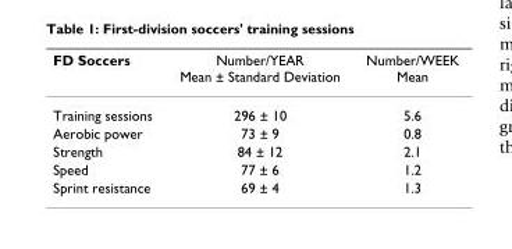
<table><thead><tr><td>FD Soccers</td><td>Number/YEAR Mean ± Standard Deviation</td><td>Number/WEEK Mean</td></tr></thead><tbody><tr><td>Training sessions</td><td>296 ± 10</td><td>5.6</td></tr><tr><td>Aerobic power</td><td>73 ± 9</td><td>0.8</td></tr><tr><td>Strength</td><td>84 ± 12</td><td>2.1</td></tr><tr><td>Speed</td><td>77 ± 6</td><td>1.2</td></tr><tr><td>Sprint resistance</td><td>69 ± 4</td><td>1.3</td></tr></tbody></table>